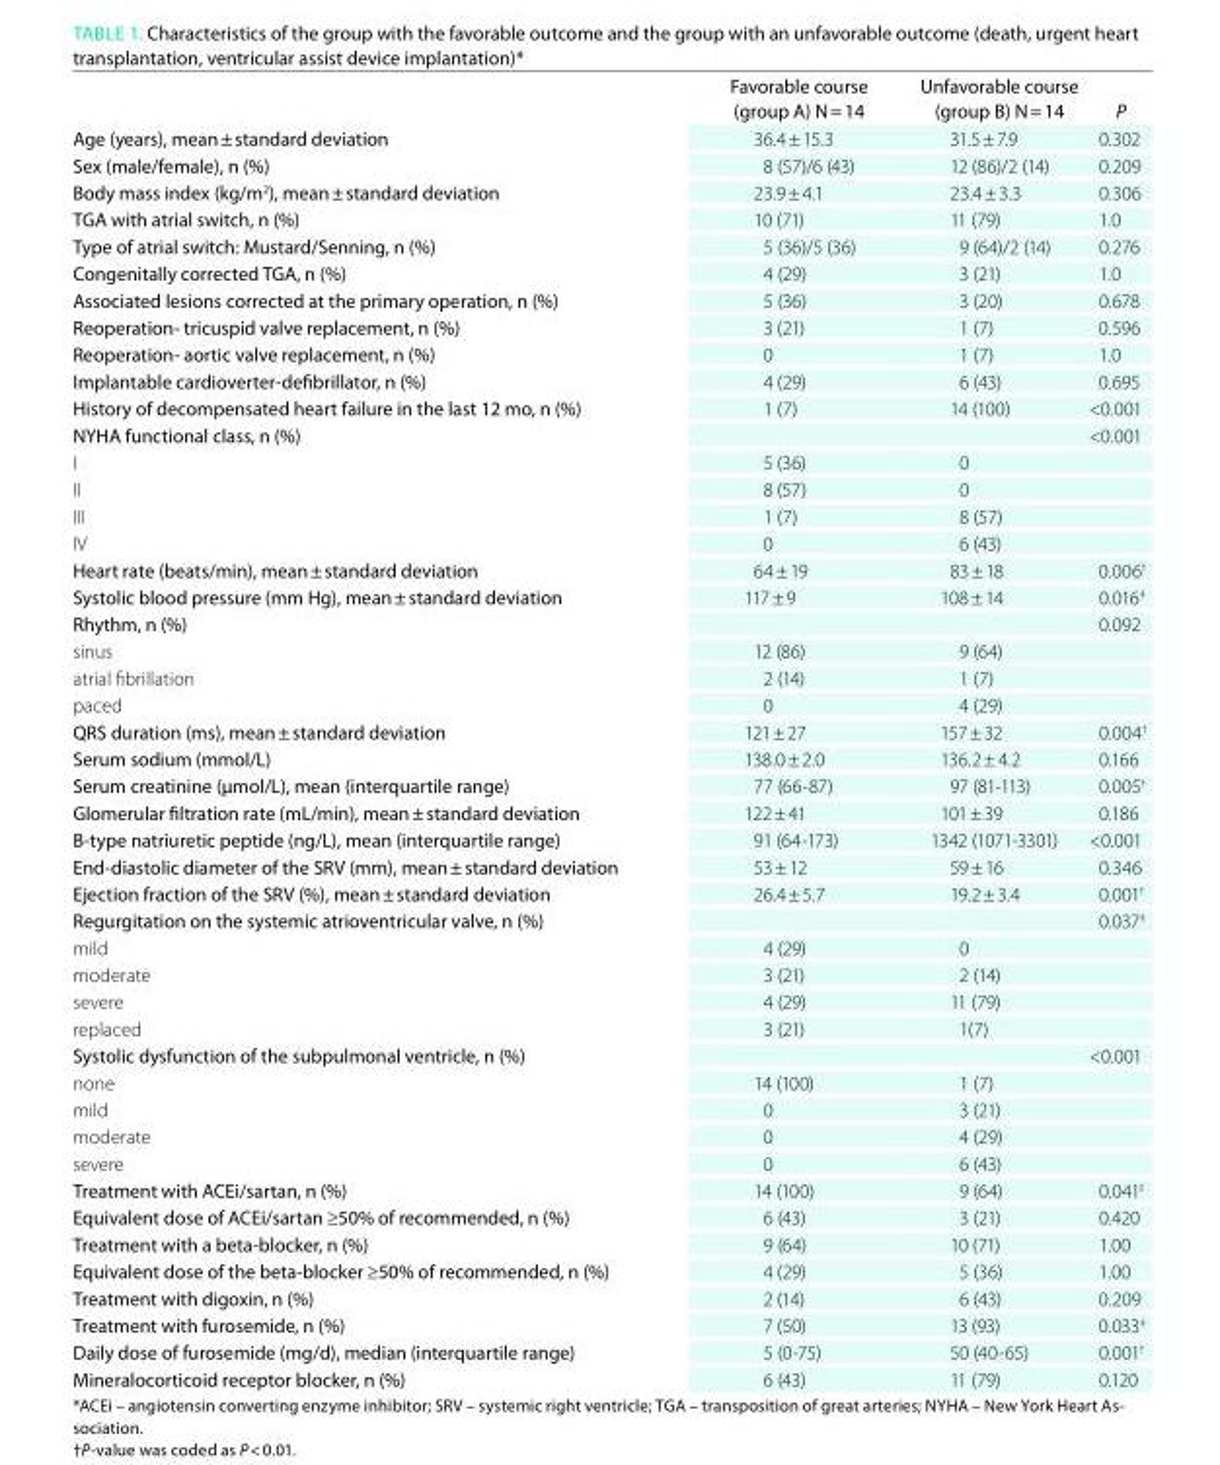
<table><thead><tr><td></td><td>Favorable course (group a) N = 14</td><td>Unfavorable course (group B) N = 14</td><td>P</td></tr></thead><tbody><tr><td>age (years), mean ± standard deviation</td><td>36.4 ± 15.3</td><td>31.5 ± 7.9</td><td>0.302</td></tr><tr><td>sex (male/female), n (%)</td><td>8 (57)/6 (43)</td><td>12 (86)/2 (14)</td><td>0.209</td></tr><tr><td>Body mass index (kg/m<sup>2</sup>), mean ± standard deviation</td><td>23.9 ± 4.1</td><td>23.4 ± 3.3</td><td>0.306</td></tr><tr><td>tGa with atrial switch, n (%)</td><td>10 (71)</td><td>11 (79)</td><td>1.0</td></tr><tr><td>type of atrial switch: Mustard/senning, n (%)</td><td>5 (36)/5 (36)</td><td>9 (64)/2 (14)</td><td>0.276</td></tr><tr><td>Congenitally corrected tGa, n (%)</td><td>4 (29)</td><td>3 (21)</td><td>1.0</td></tr><tr><td>associated lesions corrected at the primary operation, n (%)</td><td>5 (36)</td><td>3 (20)</td><td>0.678</td></tr><tr><td>Reoperation- tricuspid valve replacement, n (%)</td><td>3 (21)</td><td>1 (7)</td><td>0.596</td></tr><tr><td>Reoperation- aortic valve replacement, n (%)</td><td>0</td><td>1 (7)</td><td>1.0</td></tr><tr><td>Implantable cardioverter-defibrillator, n (%)</td><td>4 (29)</td><td>6 (43)</td><td>0.695</td></tr><tr><td>History of decompensated heart failure in the last 12 mo, n (%)</td><td>1 (7)</td><td>14 (100)</td><td>&lt;0.001</td></tr><tr><td>NYHa functional class, n (%)</td><td></td><td></td><td>&lt;0.001</td></tr><tr><td>I</td><td>5 (36)</td><td>0</td><td></td></tr><tr><td>II</td><td>8 (57)</td><td>0</td><td></td></tr><tr><td>III</td><td>1 (7)</td><td>8 (57)</td><td></td></tr><tr><td>IV</td><td>0</td><td>6 (43)</td><td></td></tr><tr><td>Heart rate (beats/min), mean ± standard deviation</td><td>64 ± 19</td><td>83 ± 18</td><td>0.006<sup>†</sup></td></tr><tr><td>systolic blood pressure (mm Hg), mean ± standard deviation</td><td>117 ± 9</td><td>108 ± 14</td><td>0.016<sup>‡</sup></td></tr><tr><td>Rhythm, n (%)</td><td></td><td></td><td>0.092</td></tr><tr><td>sinus</td><td>12 (86)</td><td>9 (64)</td><td></td></tr><tr><td>atrial fibrillation</td><td>2 (14)</td><td>1 (7)</td><td></td></tr><tr><td>paced</td><td>0</td><td>4 (29)</td><td></td></tr><tr><td>QRs duration (ms), mean ± standard deviation</td><td>121 ± 27</td><td>157 ± 32</td><td>0.004<sup>†</sup></td></tr><tr><td>serum sodium (mmol/L)</td><td>138.0 ± 2.0</td><td>136.2 ± 4.2</td><td>0.166</td></tr><tr><td>serum creatinine (µmol/L), mean (interquartile range)</td><td>77 (66-87)</td><td>97 (81-113)</td><td>0.005<sup>†</sup></td></tr><tr><td>Glomerular filtration rate (mL/min), mean ± standard deviation</td><td>122 ± 41</td><td>101 ± 39</td><td>0.186</td></tr><tr><td>B-type natriuretic peptide (ng/L), mean (interquartile range)</td><td>91 (64-173)</td><td>1342 (1071-3301)</td><td>&lt;0.001</td></tr><tr><td>end-diastolic diameter of the sRV (mm), mean ± standard deviation</td><td>53 ± 12</td><td>59 ± 16</td><td>0.346</td></tr><tr><td>ejection fraction of the sRV (%), mean ± standard deviation</td><td>26.4 ± 5.7</td><td>19.2 ± 3.4</td><td>0.001<sup>†</sup></td></tr><tr><td>Regurgitation on the systemic atrioventricular valve, n (%)</td><td></td><td></td><td>0.037<sup>‡</sup></td></tr><tr><td>mild</td><td>4 (29)</td><td>0</td><td></td></tr><tr><td>moderate</td><td>3 (21)</td><td>2 (14)</td><td></td></tr><tr><td>severe</td><td>4 (29)</td><td>11 (79)</td><td></td></tr><tr><td>replaced</td><td>3 (21)</td><td>1(7)</td><td></td></tr><tr><td>systolic dysfunction of the subpulmonal ventricle, n (%)</td><td></td><td></td><td>&lt;0.001</td></tr><tr><td>none</td><td>14 (100)</td><td>1 (7)</td><td></td></tr><tr><td>mild</td><td>0</td><td>3 (21)</td><td></td></tr><tr><td>moderate</td><td>0</td><td>4 (29)</td><td></td></tr><tr><td>severe</td><td>0</td><td>6 (43)</td><td></td></tr><tr><td>treatment with aCei/sartan, n (%)</td><td>14 (100)</td><td>9 (64)</td><td>0.041<sup>‡</sup></td></tr><tr><td>equivalent dose of aCei/sartan ≥50% of recommended, n (%)</td><td>6 (43)</td><td>3 (21)</td><td>0.420</td></tr><tr><td>treatment with a beta-blocker, n (%)</td><td>9 (64)</td><td>10 (71)</td><td>1.00</td></tr><tr><td>equivalent dose of the beta-blocker ≥50% of recommended, n (%)</td><td>4 (29)</td><td>5 (36)</td><td>1.00</td></tr><tr><td>treatment with digoxin, n (%)</td><td>2 (14)</td><td>6 (43)</td><td>0.209</td></tr><tr><td>treatment with furosemide, n (%)</td><td>7 (50)</td><td>13 (93)</td><td>0.033<sup>‡</sup></td></tr><tr><td>daily dose of furosemide (mg/d), median (interquartile range)</td><td>5 (0-75)</td><td>50 (40-65)</td><td>0.001<sup>†</sup></td></tr><tr><td>Mineralocorticoid receptor blocker, n (%)</td><td>6 (43)</td><td>11 (79)</td><td>0.120</td></tr></tbody></table>